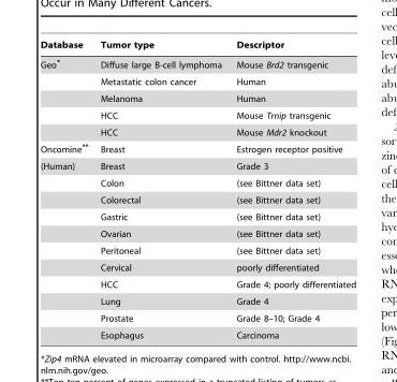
<table><thead><tr><td>Database</td><td>Tumor type</td><td>Descriptor</td></tr></thead><tbody><tr><td rowspan="5">Geo*</td><td>Diffuse large B-cell lymphoma</td><td>Mouse Brd2 transgenic</td></tr><tr><td>Metastatic colon cancer</td><td>Human</td></tr><tr><td>Melanoma</td><td>Human</td></tr><tr><td>HCC</td><td>Mouse Trnip transgenic</td></tr><tr><td>HCC</td><td>Mouse Mdr2 knockout</td></tr><tr><td>Oncomine**</td><td>Breast</td><td>Estrogen receptor positive</td></tr><tr><td rowspan="11">(Human)</td><td>Breast</td><td>Grade 3</td></tr><tr><td>Colon</td><td>(see Bittner data set)</td></tr><tr><td>Colorectal</td><td>(see Bittner data set)</td></tr><tr><td>Gastric</td><td>(see Bittner data set)</td></tr><tr><td>Ovarian</td><td>(see Bittner data set)</td></tr><tr><td>Peritoneal</td><td>(see Bittner data set)</td></tr><tr><td>Cervical</td><td>poorly differentiated</td></tr><tr><td>HCC</td><td>Grade 4; poorly differentiated</td></tr><tr><td>Lung</td><td>Grade 4</td></tr><tr><td>Prostate</td><td>Grade 8–10; Grade 4</td></tr><tr><td>Esophagus</td><td>Carcinoma</td></tr></tbody></table>